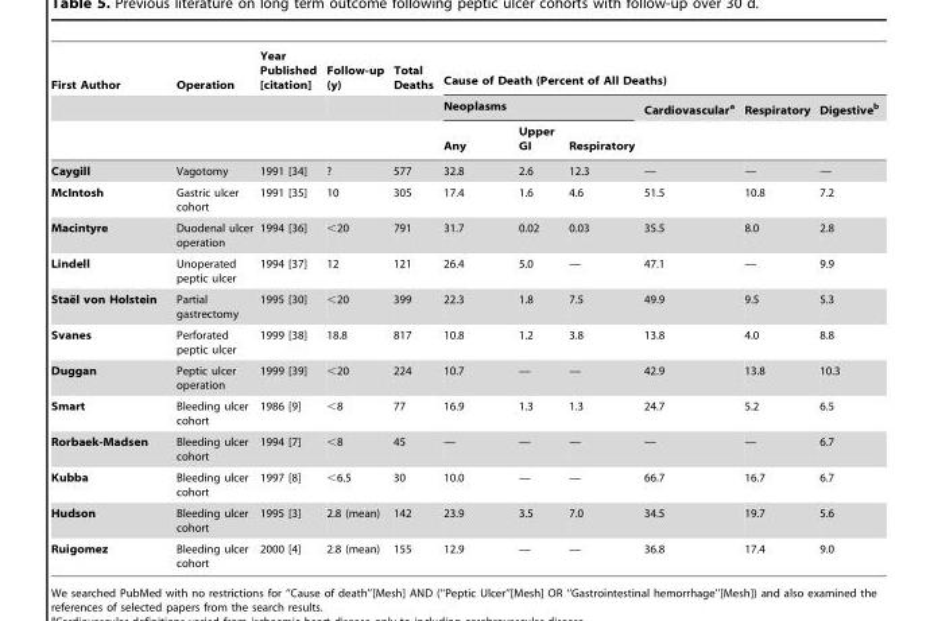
<table><thead><tr><td rowspan="3">First Author</td><td rowspan="3">Operation</td><td rowspan="3">Year Published [citation]</td><td rowspan="3">Follow-up (y)</td><td rowspan="3">Total Deaths</td><td colspan="6">Cause of Death (Percent of All Deaths)</td></tr><tr><td colspan="3">Neoplasms</td><td rowspan="2">Cardiovascular<sup>a</sup></td><td rowspan="2">Respiratory</td><td rowspan="2">Digestive<sup>b</sup></td></tr><tr><td>Any</td><td>Upper GI</td><td>Respiratory</td></tr></thead><tbody><tr><td>Caygill</td><td>Vagotomy</td><td>1991 [34]</td><td>?</td><td>577</td><td>32.8</td><td>2.6</td><td>12.3</td><td>—</td><td>—</td><td>—</td></tr><tr><td>McIntosh</td><td>Gastric ulcer cohort</td><td>1991 [35]</td><td>10</td><td>305</td><td>17.4</td><td>1.6</td><td>4.6</td><td>51.5</td><td>10.8</td><td>7.2</td></tr><tr><td>Macintyre</td><td>Duodenal ulcer operation</td><td>1994 [36]</td><td>&lt;20</td><td>791</td><td>31.7</td><td>0.02</td><td>0.03</td><td>35.5</td><td>8.0</td><td>2.8</td></tr><tr><td>Lindell</td><td>Unoperated peptic ulcer</td><td>1994 [37]</td><td>12</td><td>121</td><td>26.4</td><td>5.0</td><td>—</td><td>47.1</td><td>—</td><td>9.9</td></tr><tr><td>Stae¨l von Holstein</td><td>Partial gastrectomy</td><td>1995 [30]</td><td>&lt;20</td><td>399</td><td>22.3</td><td>1.8</td><td>7.5</td><td>49.9</td><td>9.5</td><td>5.3</td></tr><tr><td>Svanes</td><td>Perforated peptic ulcer</td><td>1999 [38]</td><td>18.8</td><td>817</td><td>10.8</td><td>1.2</td><td>3.8</td><td>13.8</td><td>4.0</td><td>8.8</td></tr><tr><td>Duggan</td><td>Peptic ulcer operation</td><td>1999 [39]</td><td>&lt;20</td><td>224</td><td>10.7</td><td>—</td><td>—</td><td>42.9</td><td>13.8</td><td>10.3</td></tr><tr><td>Smart</td><td>Bleeding ulcer cohort</td><td>1986 [9]</td><td>&lt;8</td><td>77</td><td>16.9</td><td>1.3</td><td>1.3</td><td>24.7</td><td>5.2</td><td>6.5</td></tr><tr><td>Rorbaek-Madsen</td><td>Bleeding ulcer cohort</td><td>1994 [7]</td><td>&lt;8</td><td>45</td><td>—</td><td>—</td><td>—</td><td>—</td><td>—</td><td>6.7</td></tr><tr><td>Kubba</td><td>Bleeding ulcer cohort</td><td>1997 [8]</td><td>&lt;6.5</td><td>30</td><td>10.0</td><td>—</td><td>—</td><td>66.7</td><td>16.7</td><td>6.7</td></tr><tr><td>Hudson</td><td>Bleeding ulcer cohort</td><td>1995 [3]</td><td>2.8 (mean)</td><td>142</td><td>23.9</td><td>3.5</td><td>7.0</td><td>34.5</td><td>19.7</td><td>5.6</td></tr><tr><td>Ruigomez</td><td>Bleeding ulcer cohort</td><td>2000 [4]</td><td>2.8 (mean)</td><td>155</td><td>12.9</td><td>—</td><td>—</td><td>36.8</td><td>17.4</td><td>9.0</td></tr></tbody></table>